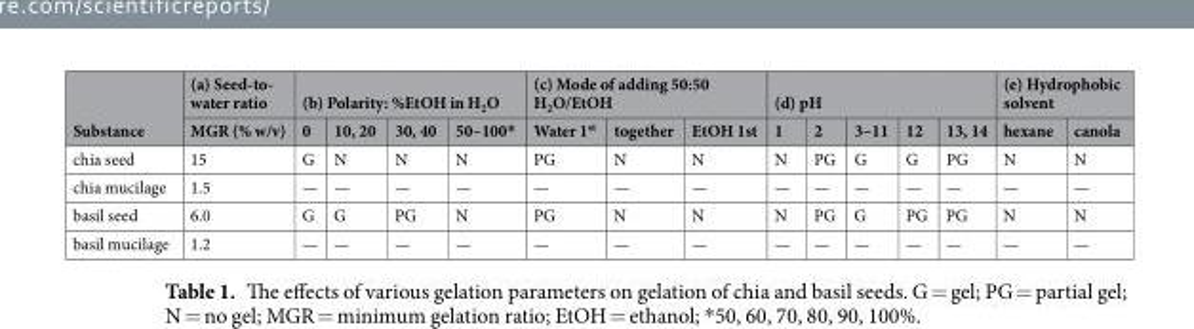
<table><thead><tr><td rowspan="2">Substance</td><td rowspan="2">(a) Seed-to- water ratio MGR (% w/v)</td><td colspan="4">(b) Polarity: %EtOH in H<sub>2</sub>O</td><td colspan="3">(c) Mode of adding 50:50 H<sub>2</sub>O/EtOH</td><td colspan="5">(d) pH</td><td colspan="2">(e) Hydrophobic solvent</td></tr><tr><td>0</td><td>10, 20</td><td>30, 40</td><td>50–100*</td><td>Water 1<sup>st</sup></td><td>together</td><td>EtOH 1st</td><td>1</td><td>2</td><td>3–11</td><td>12</td><td>13, 14</td><td>hexane</td><td>canola</td></tr></thead><tbody><tr><td>chia seed</td><td>15</td><td>G</td><td>N</td><td>N</td><td>N</td><td>PG</td><td>N</td><td>N</td><td>N</td><td>PG</td><td>G</td><td>G</td><td>PG</td><td>N</td><td>N</td></tr><tr><td>chia mucilage</td><td>1.5</td><td>—</td><td>—</td><td>—</td><td>—</td><td>—</td><td>—</td><td>—</td><td>—</td><td>—</td><td>—</td><td>—</td><td>—</td><td>—</td><td>—</td></tr><tr><td>basil seed</td><td>6.0</td><td>G</td><td>G</td><td>PG</td><td>N</td><td>PG</td><td>N</td><td>N</td><td>N</td><td>PG</td><td>G</td><td>PG</td><td>PG</td><td>N</td><td>N</td></tr><tr><td>basil mucilage</td><td>1.2</td><td>—</td><td>—</td><td>—</td><td>—</td><td>—</td><td>—</td><td>—</td><td>—</td><td>—</td><td>—</td><td>—</td><td>—</td><td>—</td><td>—</td></tr></tbody></table>